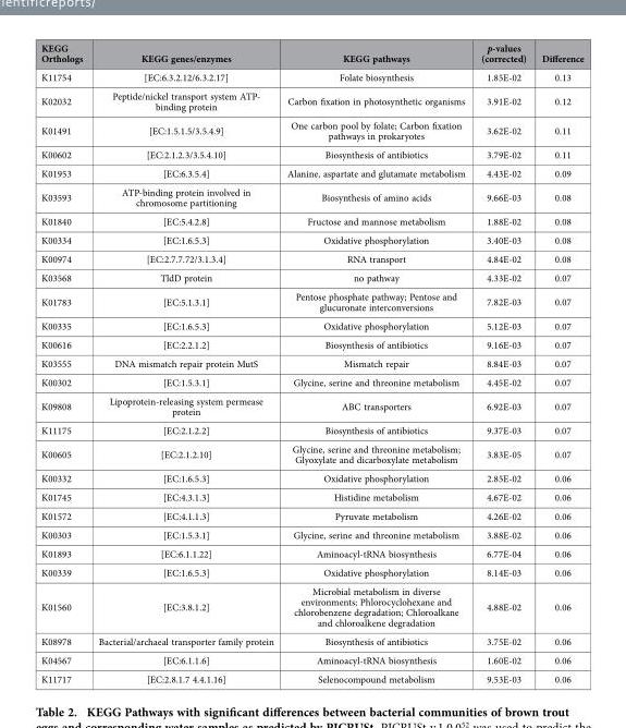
<table><thead><tr><td>KEGG Orthologs</td><td>KEGG genes/enzymes</td><td>KEGG pathways</td><td>p-values (corrected)</td><td>Difference</td></tr></thead><tbody><tr><td>K11754</td><td>[EC:6.3.2.12/6.3.2.17]</td><td>Folate biosynthesis</td><td>1.85E-02</td><td>0.13</td></tr><tr><td>K02032</td><td>Peptide/nickel transport system ATP- binding protein</td><td>Carbon fixation in photosynthetic organisms</td><td>3.91E-02</td><td>0.12</td></tr><tr><td>K01491</td><td>[EC:1.5.1.5/3.5.4.9]</td><td>One carbon pool by folate; Carbon fixation pathways in prokaryotes</td><td>3.62E-02</td><td>0.11</td></tr><tr><td>K00602</td><td>[EC:2.1.2.3/3.5.4.10]</td><td>Biosynthesis of antibiotics</td><td>3.79E-02</td><td>0.11</td></tr><tr><td>K01953</td><td>[EC:6.3.5.4]</td><td>Alanine, aspartate and glutamate metabolism</td><td>4.43E-02</td><td>0.09</td></tr><tr><td>K03593</td><td>ATP-binding protein involved in chromosome partitioning</td><td>Biosynthesis of amino acids</td><td>9.66E-03</td><td>0.08</td></tr><tr><td>K01840</td><td>[EC:5.4.2.8]</td><td>Fructose and mannose metabolism</td><td>1.88E-02</td><td>0.08</td></tr><tr><td>K00334</td><td>[EC:1.6.5.3]</td><td>Oxidative phosphorylation</td><td>3.40E-03</td><td>0.08</td></tr><tr><td>K00974</td><td>[EC:2.7.7.72/3.1.3.4]</td><td>RNA transport</td><td>4.84E-02</td><td>0.08</td></tr><tr><td>K03568</td><td>TldD protein</td><td>no pathway</td><td>4.33E-02</td><td>0.07</td></tr><tr><td>K01783</td><td>[EC:5.1.3.1]</td><td>Pentose phosphate pathway; Pentose and glucuronate interconversions</td><td>7.82E-03</td><td>0.07</td></tr><tr><td>K00335</td><td>[EC:1.6.5.3]</td><td>Oxidative phosphorylation</td><td>5.12E-03</td><td>0.07</td></tr><tr><td>K00616</td><td>[EC:2.2.1.2]</td><td>Biosynthesis of antibiotics</td><td>9.16E-03</td><td>0.07</td></tr><tr><td>K03555</td><td>DNA mismatch repair protein MutS</td><td>Mismatch repair</td><td>8.84E-03</td><td>0.07</td></tr><tr><td>K00302</td><td>[EC:1.5.3.1]</td><td>Glycine, serine and threonine metabolism</td><td>4.45E-02</td><td>0.07</td></tr><tr><td>K09808</td><td>Lipoprotein-releasing system permease protein</td><td>ABC transporters</td><td>6.92E-03</td><td>0.07</td></tr><tr><td>K11175</td><td>[EC:2.1.2.2]</td><td>Biosynthesis of antibiotics</td><td>9.37E-03</td><td>0.07</td></tr><tr><td>K00605</td><td>[EC:2.1.2.10]</td><td>Glycine, serine and threonine metabolism; Glyoxylate and dicarboxylate metabolism</td><td>3.83E-05</td><td>0.07</td></tr><tr><td>K00332</td><td>[EC:1.6.5.3]</td><td>Oxidative phosphorylation</td><td>2.85E-02</td><td>0.06</td></tr><tr><td>K01745</td><td>[EC:4.3.1.3]</td><td>Histidine metabolism</td><td>4.67E-02</td><td>0.06</td></tr><tr><td>K01572</td><td>[EC:4.1.1.3]</td><td>Pyruvate metabolism</td><td>4.26E-02</td><td>0.06</td></tr><tr><td>K00303</td><td>[EC:1.5.3.1]</td><td>Glycine, serine and threonine metabolism</td><td>3.88E-02</td><td>0.06</td></tr><tr><td>K01893</td><td>[EC:6.1.1.22]</td><td>Aminoacyl-tRNA biosynthesis</td><td>6.77E-04</td><td>0.06</td></tr><tr><td>K00339</td><td>[EC:1.6.5.3]</td><td>Oxidative phosphorylation</td><td>8.14E-03</td><td>0.06</td></tr><tr><td>K01560</td><td>[EC:3.8.1.2]</td><td>Microbial metabolism in diverse environments; Phlorocyclohexane and chlorobenzene degradation; Chloroalkane and chloroalkene degradation</td><td>4.88E-02</td><td>0.06</td></tr><tr><td>K08978</td><td>Bacterial/archaeal transporter family protein</td><td>Biosynthesis of antibiotics</td><td>3.75E-02</td><td>0.06</td></tr><tr><td>K04567</td><td>[EC:6.1.1.6]</td><td>Aminoacyl-tRNA biosynthesis</td><td>1.60E-02</td><td>0.06</td></tr><tr><td>K11717</td><td>[EC:2.8.1.7 4.4.1.16]</td><td>Selenocompound metabolism</td><td>9.53E-03</td><td>0.06</td></tr></tbody></table>